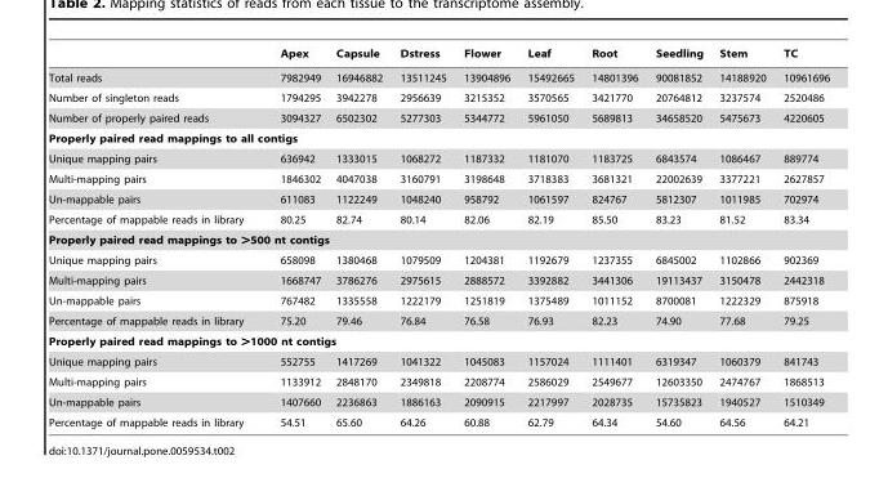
<table><thead><tr><td></td><td>Apex</td><td>Capsule</td><td>Dstress</td><td>Flower</td><td>Leaf</td><td>Root</td><td>Seedling</td><td>Stem</td><td>TC</td></tr></thead><tbody><tr><td>Total reads</td><td>7982949</td><td>16946882</td><td>13511245</td><td>13904896</td><td>15492665</td><td>14801396</td><td>90081852</td><td>14188920</td><td>10961696</td></tr><tr><td>Number of singleton reads</td><td>1794295</td><td>3942278</td><td>2956639</td><td>3215352</td><td>3570565</td><td>3421770</td><td>20764812</td><td>3237574</td><td>2520486</td></tr><tr><td>Number of properly paired reads</td><td>3094327</td><td>6502302</td><td>5277303</td><td>5344772</td><td>5961050</td><td>5689813</td><td>34658520</td><td>5475673</td><td>4220605</td></tr><tr><td colspan="10">Properly paired read mappings to all contigs</td></tr><tr><td>Unique mapping pairs</td><td>636942</td><td>1333015</td><td>1068272</td><td>1187332</td><td>1181070</td><td>1183725</td><td>6843574</td><td>1086467</td><td>889774</td></tr><tr><td>Multi-mapping pairs</td><td>1846302</td><td>4047038</td><td>3160791</td><td>3198648</td><td>3718383</td><td>3681321</td><td>22002639</td><td>3377221</td><td>2627857</td></tr><tr><td>Un-mappable pairs</td><td>611083</td><td>1122249</td><td>1048240</td><td>958792</td><td>1061597</td><td>824767</td><td>5812307</td><td>1011985</td><td>702974</td></tr><tr><td>Percentage of mappable reads in library</td><td>80.25</td><td>82.74</td><td>80.14</td><td>82.06</td><td>82.19</td><td>85.50</td><td>83.23</td><td>81.52</td><td>83.34</td></tr><tr><td colspan="10">Properly paired read mappings to &gt;500 nt contigs</td></tr><tr><td>Unique mapping pairs</td><td>658098</td><td>1380468</td><td>1079509</td><td>1204381</td><td>1192679</td><td>1237355</td><td>6845002</td><td>1102866</td><td>902369</td></tr><tr><td>Multi-mapping pairs</td><td>1668747</td><td>3786276</td><td>2975615</td><td>2888572</td><td>3392882</td><td>3441306</td><td>19113437</td><td>3150478</td><td>2442318</td></tr><tr><td>Un-mappable pairs</td><td>767482</td><td>1335558</td><td>1222179</td><td>1251819</td><td>1375489</td><td>1011152</td><td>8700081</td><td>1222329</td><td>875918</td></tr><tr><td>Percentage of mappable reads in library</td><td>75.20</td><td>79.46</td><td>76.84</td><td>76.58</td><td>76.93</td><td>82.23</td><td>74.90</td><td>77.68</td><td>79.25</td></tr><tr><td colspan="10">Properly paired read mappings to &gt;1000 nt contigs</td></tr><tr><td>Unique mapping pairs</td><td>552755</td><td>1417269</td><td>1041322</td><td>1045083</td><td>1157024</td><td>1111401</td><td>6319347</td><td>1060379</td><td>841743</td></tr><tr><td>Multi-mapping pairs</td><td>1133912</td><td>2848170</td><td>2349818</td><td>2208774</td><td>2586029</td><td>2549677</td><td>12603350</td><td>2474767</td><td>1868513</td></tr><tr><td>Un-mappable pairs</td><td>1407660</td><td>2236863</td><td>1886163</td><td>2090915</td><td>2217997</td><td>2028735</td><td>15735823</td><td>1940527</td><td>1510349</td></tr><tr><td>Percentage of mappable reads in library</td><td>54.51</td><td>65.60</td><td>64.26</td><td>60.88</td><td>62.79</td><td>64.34</td><td>54.60</td><td>64.56</td><td>64.21</td></tr></tbody></table>